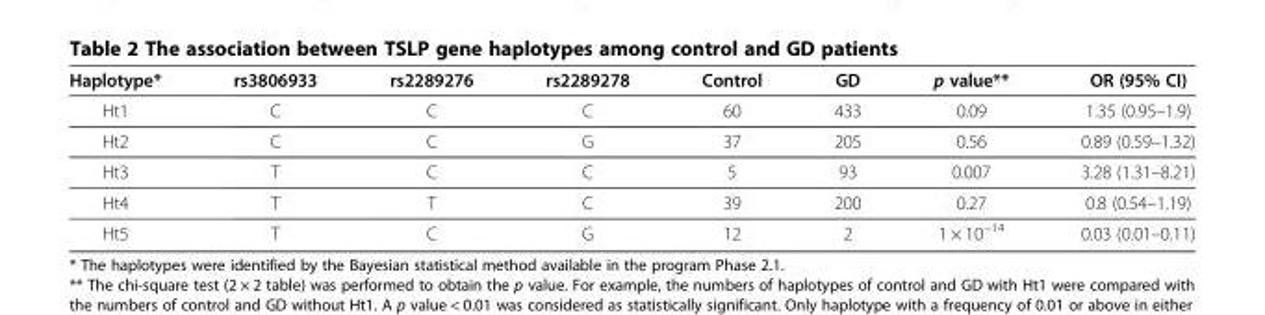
<table><thead><tr><td>Haplotype*</td><td>rs3806933</td><td>rs2289276</td><td>rs2289278</td><td>Control</td><td>GD</td><td>p value**</td><td>OR (95% CI)</td></tr></thead><tbody><tr><td>Ht1</td><td>C</td><td>C</td><td>C</td><td>60</td><td>433</td><td>0.09</td><td>1.35 (0.95–1.9)</td></tr><tr><td>Ht2</td><td>C</td><td>C</td><td>G</td><td>37</td><td>205</td><td>0.56</td><td>0.89 (0.59–1.32)</td></tr><tr><td>Ht3</td><td>T</td><td>C</td><td>C</td><td>5</td><td>93</td><td>0.007</td><td>3.28 (1.31–8.21)</td></tr><tr><td>Ht4</td><td>T</td><td>T</td><td>C</td><td>39</td><td>200</td><td>0.27</td><td>0.8 (0.54–1.19)</td></tr><tr><td>Ht5</td><td>T</td><td>C</td><td>G</td><td>12</td><td>2</td><td>1 × 10<sup>−14</sup></td><td>0.03 (0.01–0.11)</td></tr></tbody></table>